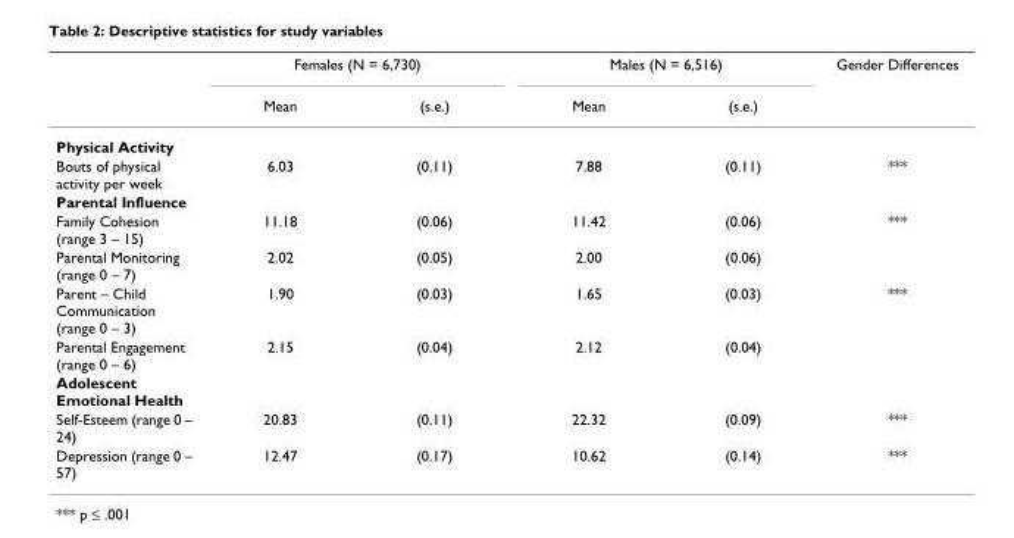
<table><thead><tr><td rowspan="2"></td><td colspan="2">Females (N = 6,730)</td><td colspan="2">Males (N = 6,516)</td><td rowspan="2">Gender Differences</td></tr><tr><td>Mean</td><td>(s.e.)</td><td>Mean</td><td>(s.e.)</td></tr></thead><tbody><tr><td colspan="6">Physical Activity</td></tr><tr><td>Bouts of physical activity per week</td><td>6.03</td><td>(0.11)</td><td>7.88</td><td>(0.11)</td><td>***</td></tr><tr><td colspan="6">Parental Influence</td></tr><tr><td>Family Cohesion (range 3 – 15)</td><td>11.18</td><td>(0.06)</td><td>11.42</td><td>(0.06)</td><td>***</td></tr><tr><td>Parental Monitoring (range 0 – 7)</td><td>2.02</td><td>(0.05)</td><td>2.00</td><td>(0.06)</td><td></td></tr><tr><td>Parent – Child Communication (range 0 – 3)</td><td>1.90</td><td>(0.03)</td><td>1.65</td><td>(0.03)</td><td>***</td></tr><tr><td>Parental Engagement (range 0 – 6)</td><td>2.15</td><td>(0.04)</td><td>2.12</td><td>(0.04)</td><td></td></tr><tr><td colspan="6">Adolescent Emotional Health</td></tr><tr><td>Self-Esteem (range 0 – 24)</td><td>20.83</td><td>(0.11)</td><td>22.32</td><td>(0.09)</td><td>***</td></tr><tr><td>Depression (range 0 – 57)</td><td>12.47</td><td>(0.17)</td><td>10.62</td><td>(0.14)</td><td>***</td></tr></tbody></table>